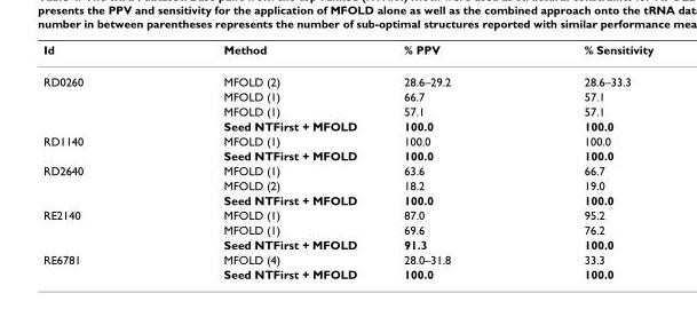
<table><thead><tr><td>Id</td><td>Method</td><td>% PPV</td><td>% Sensitivity</td></tr></thead><tbody><tr><td rowspan="4">RD0260</td><td>MFOLD (2)</td><td>28.6–29.2</td><td>28.6–33.3</td></tr><tr><td>MFOLD (1)</td><td>66.7</td><td>57.1</td></tr><tr><td>MFOLD (1)</td><td>57.1</td><td>57.1</td></tr><tr><td>Seed NTFirst + MFOLD</td><td>100.0</td><td>100.0</td></tr><tr><td rowspan="2">RD1140</td><td>MFOLD (1)</td><td>100.0</td><td>100.0</td></tr><tr><td>Seed NTFirst + MFOLD</td><td>100.0</td><td>100.0</td></tr><tr><td rowspan="3">RD2640</td><td>MFOLD (1)</td><td>63.6</td><td>66.7</td></tr><tr><td>MFOLD (2)</td><td>18.2</td><td>19.0</td></tr><tr><td>Seed NTFirst + MFOLD</td><td>100.0</td><td>100.0</td></tr><tr><td rowspan="3">RE2140</td><td>MFOLD (1)</td><td>87.0</td><td>95.2</td></tr><tr><td>MFOLD (1)</td><td>69.6</td><td>76.2</td></tr><tr><td>Seed NTFirst + MFOLD</td><td>91.3</td><td>100.0</td></tr><tr><td rowspan="2">RE6781</td><td>MFOLD (4)</td><td>28.0–31.8</td><td>33.3</td></tr><tr><td>Seed NTFirst + MFOLD</td><td>100.0</td><td>100.0</td></tr></tbody></table>